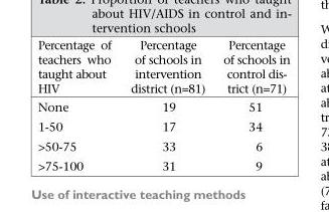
<table><thead><tr><td>Percentage of teachers who taught about HIV</td><td>Percentage of schools in intervention district (n=81)</td><td>Percentage of schools in control dis- trict (n=71)</td></tr></thead><tbody><tr><td>None</td><td>19</td><td>51</td></tr><tr><td>1-50</td><td>17</td><td>34</td></tr><tr><td>&gt;50-75</td><td>33</td><td>6</td></tr><tr><td>&gt;75-100</td><td>31</td><td>9</td></tr></tbody></table>